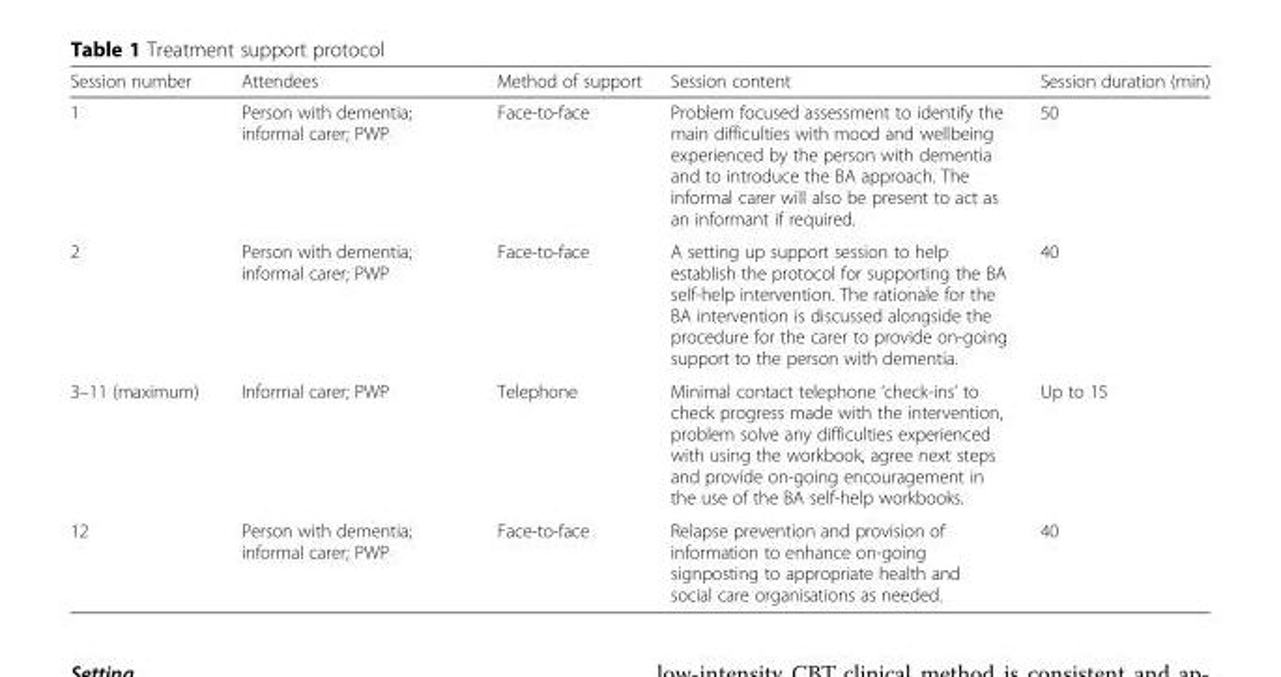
<table><thead><tr><td>Session number</td><td>Attendees</td><td>Method of support</td><td>Session content</td><td>Session duration (min)</td></tr></thead><tbody><tr><td>1</td><td>Person with dementia; informal carer; PWP</td><td>Face-to-face</td><td>Problem focused assessment to identify the main difficulties with mood and wellbeing experienced by the person with dementia and to introduce the BA approach. The informal carer will also be present to act as an informant if required.</td><td>50</td></tr><tr><td>2</td><td>Person with dementia; informal carer; PWP</td><td>Face-to-face</td><td>A setting up support session to help establish the protocol for supporting the BA self-help intervention. The rationale for the BA intervention is discussed alongside the procedure for the carer to provide on-going support to the person with dementia.</td><td>40</td></tr><tr><td>3–11 (maximum)</td><td>Informal carer; PWP</td><td>Telephone</td><td>Minimal contact telephone ‘check-ins’ to check progress made with the intervention, problem solve any difficulties experienced with using the workbook, agree next steps and provide on-going encouragement in the use of the BA self-help workbooks.</td><td>Up to 15</td></tr><tr><td>12</td><td>Person with dementia; informal carer; PWP</td><td>Face-to-face</td><td>Relapse prevention and provision of information to enhance on-going signposting to appropriate health and social care organisations as needed.</td><td>40</td></tr></tbody></table>